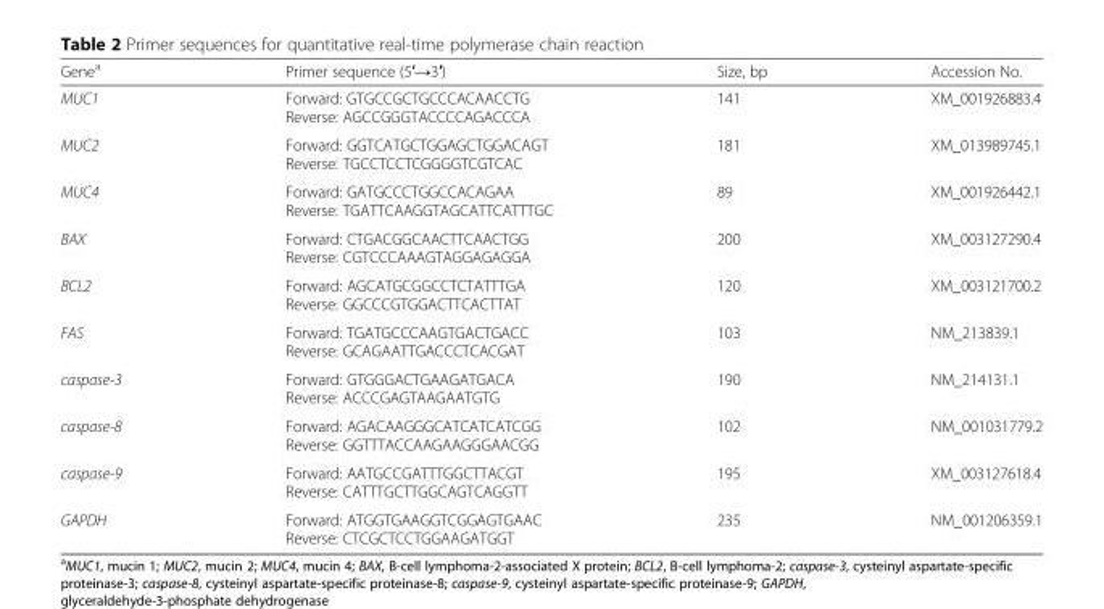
<table><thead><tr><td>Gene<sup>a</sup></td><td>Primer sequence (5′→3′)</td><td>Size, bp</td><td>Accession No.</td></tr></thead><tbody><tr><td>MUC1</td><td>Forward: GTGCCGCTGCCCACAACCTG Reverse: AGCCGGGTACCCCAGACCCA</td><td>141</td><td>XM_001926883.4</td></tr><tr><td>MUC2</td><td>Forward: GGTCATGCTGGAGCTGGACAGT Reverse: TGCCTCCTCGGGGTCGTCAC</td><td>181</td><td>XM_013989745.1</td></tr><tr><td>MUC4</td><td>Forward: GATGCCCTGGCCACAGAA Reverse: TGATTCAAGGTAGCATTCATTTGC</td><td>89</td><td>XM_001926442.1</td></tr><tr><td>BAX</td><td>Forward: CTGACGGCAACTTCAACTGG Reverse: CGTCCCAAAGTAGGAGAGGA</td><td>200</td><td>XM_003127290.4</td></tr><tr><td>BCL2</td><td>Forward: AGCATGCGGCCTCTATTTGA Reverse: GGCCCGTGGACTTCACTTAT</td><td>120</td><td>XM_003121700.2</td></tr><tr><td>FAS</td><td>Forward: TGATGCCCAAGTGACTGACC Reverse: GCAGAATTGACCCTCACGAT</td><td>103</td><td>NM_213839.1</td></tr><tr><td>caspase-3</td><td>Forward: GTGGGACTGAAGATGACA Reverse: ACCCGAGTAAGAATGTG</td><td>190</td><td>NM_214131.1</td></tr><tr><td>caspase-8</td><td>Forward: AGACAAGGGCATCATCATCGG Reverse: GGTTTACCAAGAAGGGAACGG</td><td>102</td><td>NM_001031779.2</td></tr><tr><td>caspase-9</td><td>Forward: AATGCCGATTTGGCTTACGT Reverse: CATTTGCTTGGCAGTCAGGTT</td><td>195</td><td>XM_003127618.4</td></tr><tr><td>GAPDH</td><td>Forward: ATGGTGAAGGTCGGAGTGAAC Reverse: CTCGCTCCTGGAAGATGGT</td><td>235</td><td>NM_001206359.1</td></tr></tbody></table>